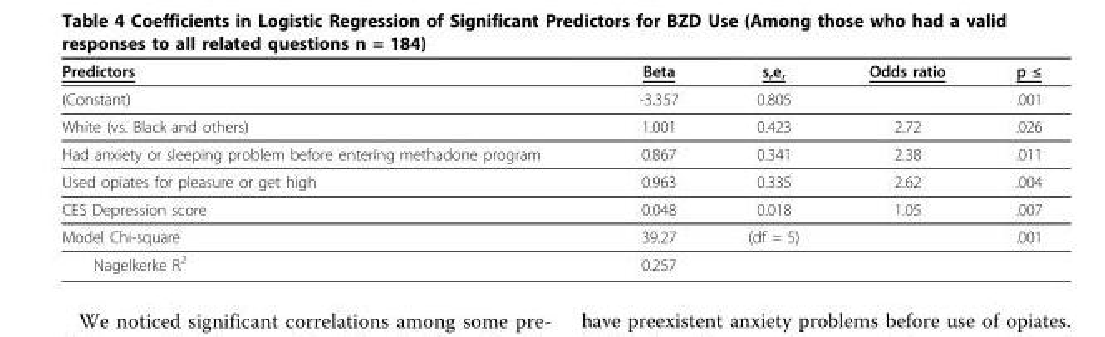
<table><thead><tr><td>Predictors</td><td>Beta</td><td>s,e,</td><td>Odds ratio</td><td>p ≤</td></tr></thead><tbody><tr><td>(Constant)</td><td>-3.357</td><td>0.805</td><td></td><td>.001</td></tr><tr><td>White (vs. Black and others)</td><td>1.001</td><td>0.423</td><td>2.72</td><td>.026</td></tr><tr><td>Had anxiety or sleeping problem before entering methadone program</td><td>0.867</td><td>0.341</td><td>2.38</td><td>.011</td></tr><tr><td>Used opiates for pleasure or get high</td><td>0.963</td><td>0.335</td><td>2.62</td><td>.004</td></tr><tr><td>CES Depression score</td><td>0.048</td><td>0.018</td><td>1.05</td><td>.007</td></tr><tr><td>Model Chi-square</td><td>39.27</td><td>(df = 5)</td><td></td><td>.001</td></tr><tr><td>Nagelkerke R<sup>2</sup></td><td>0.257</td><td></td><td></td><td></td></tr></tbody></table>